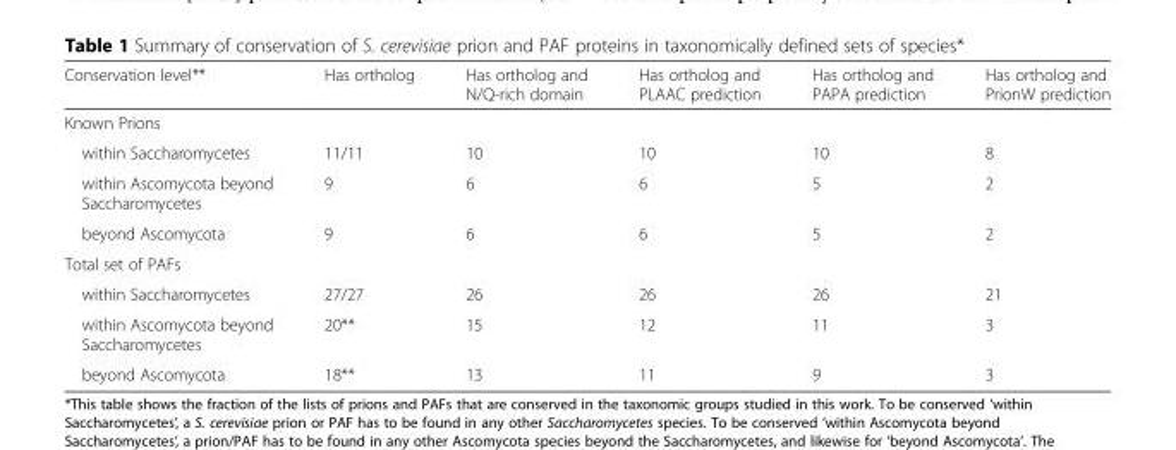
<table><thead><tr><td>Conservation level**</td><td>Has ortholog</td><td>Has ortholog and N/Q-rich domain</td><td>Has ortholog and PLAAC prediction</td><td>Has ortholog and PAPA prediction</td><td>Has ortholog and PrionW prediction</td></tr></thead><tbody><tr><td colspan="6">Known Prions</td></tr><tr><td>within Saccharomycetes</td><td>11/11</td><td>10</td><td>10</td><td>10</td><td>8</td></tr><tr><td>within Ascomycota beyond Saccharomycetes</td><td>9</td><td>6</td><td>6</td><td>5</td><td>2</td></tr><tr><td>beyond Ascomycota</td><td>9</td><td>6</td><td>6</td><td>5</td><td>2</td></tr><tr><td colspan="6">Total set of PAFs</td></tr><tr><td>within Saccharomycetes</td><td>27/27</td><td>26</td><td>26</td><td>26</td><td>21</td></tr><tr><td>within Ascomycota beyond Saccharomycetes</td><td>20**</td><td>15</td><td>12</td><td>11</td><td>3</td></tr><tr><td>beyond Ascomycota</td><td>18**</td><td>13</td><td>11</td><td>9</td><td>3</td></tr></tbody></table>